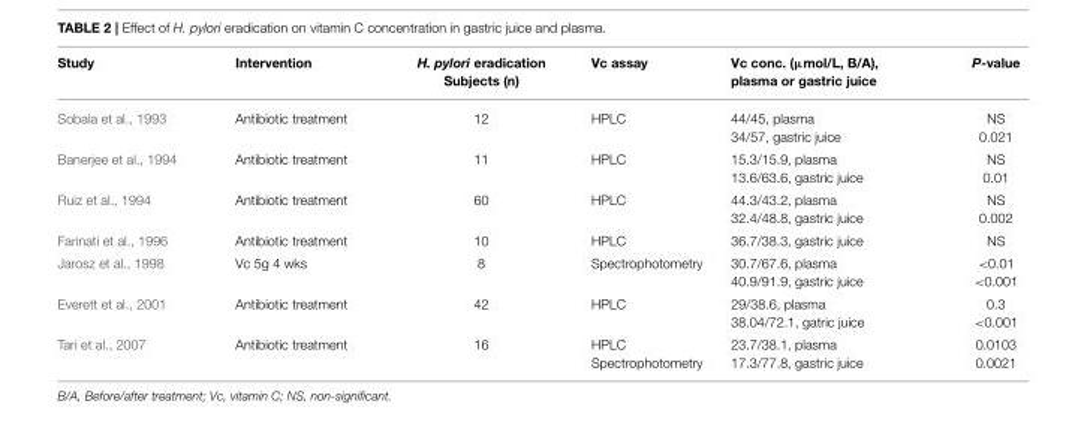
<table><thead><tr><td>Study</td><td>Intervention</td><td>H. pylori eradication Subjects (n)</td><td>Vc assay</td><td>Vc conc. (µmol/L, B/A), plasma or gastric juice</td><td>P-value</td></tr></thead><tbody><tr><td>Sobala et al., 1993</td><td>Antibiotic treatment</td><td>12</td><td>HPLC</td><td>44/45, plasma 34/57, gastric juice</td><td>NS 0.021</td></tr><tr><td>Banerjee et al., 1994</td><td>Antibiotic treatment</td><td>11</td><td>HPLC</td><td>15.3/15.9, plasma 13.6/63.6, gastric juice</td><td>NS 0.01</td></tr><tr><td>Ruiz et al., 1994</td><td>Antibiotic treatment</td><td>60</td><td>HPLC</td><td>44.3/43.2, plasma 32.4/48.8, gastric juice</td><td>NS 0.002</td></tr><tr><td>Farinati et al., 1996</td><td>Antibiotic treatment</td><td>10</td><td>HPLC</td><td>36.7/38.3, gastric juice</td><td>NS</td></tr><tr><td>Jarosz et al., 1998</td><td>Vc 5g 4 wks</td><td>8</td><td>Spectrophotometry</td><td>30.7/67.6, plasma 40.9/91.9, gastric juice</td><td>&lt;0.01 &lt;0.001</td></tr><tr><td>Everett et al., 2001</td><td>Antibiotic treatment</td><td>42</td><td>HPLC</td><td>29/38.6, plasma 38.04/72.1, gatric juice</td><td>0.3 &lt;0.001</td></tr><tr><td>Tari et al., 2007</td><td>Antibiotic treatment</td><td>16</td><td>HPLC Spectrophotometry</td><td>23.7/38.1, plasma 17.3/77.8, gastric juice</td><td>0.0103 0.0021</td></tr></tbody></table>